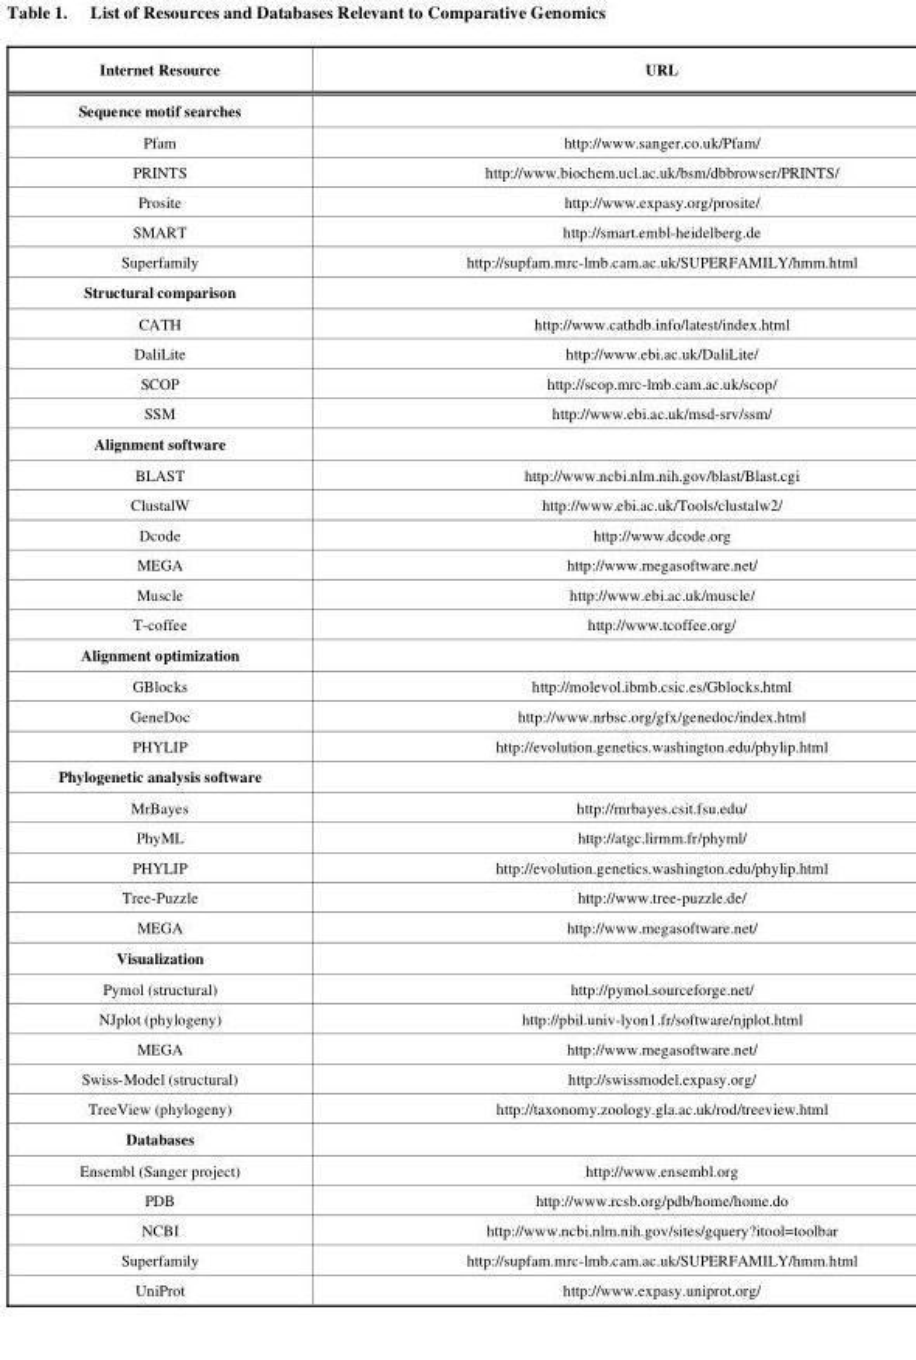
<table><thead><tr><td>Internet Resource</td><td>URL</td></tr></thead><tbody><tr><td colspan="2">Sequence motif searches</td></tr><tr><td>Pfam</td><td>http://www.sanger.co.uk/Pfam/</td></tr><tr><td>PRINTS</td><td>http://www.biochem.ucl.ac.uk/bsm/dbbrowser/PRINTS/</td></tr><tr><td>Prosite</td><td>http://www.expasy.org/prosite/</td></tr><tr><td>SMART</td><td>http://smart.embl-heidelberg.de</td></tr><tr><td>Superfamily</td><td>http://supfam.mrc-lmb.cam.ac.uk/SUPERFAMILY/hmm.html</td></tr><tr><td colspan="2">Structural comparison</td></tr><tr><td>CATH</td><td>http://www.cathdb.info/latest/index.html</td></tr><tr><td>DaliLite</td><td>http://www.ebi.ac.uk/DaliLite/</td></tr><tr><td>SCOP</td><td>http://scop.mrc-lmb.cam.ac.uk/scop/</td></tr><tr><td>SSM</td><td>http://www.ebi.ac.uk/msd-srv/ssm/</td></tr><tr><td colspan="2">Alignment software</td></tr><tr><td>BLAST</td><td>http://www.ncbi.nlm.nih.gov/blast/Blast.cgi</td></tr><tr><td>ClustalW</td><td>http://www.ebi.ac.uk/Tools/clustalw2/</td></tr><tr><td>Dcode</td><td>http://www.dcode.org</td></tr><tr><td>MEGA</td><td>http://www.megasoftware.net/</td></tr><tr><td>Muscle</td><td>http://www.ebi.ac.uk/muscle/</td></tr><tr><td>T-coffee</td><td>http://www.tcoffee.org/</td></tr><tr><td colspan="2">Alignment optimization</td></tr><tr><td>GBlocks</td><td>http://molevol.ibmb.csic.es/Gblocks.html</td></tr><tr><td>GeneDoc</td><td>http://www.nrbsc.org/gfx/genedoc/index.html</td></tr><tr><td>PHYLIP</td><td>http://evolution.genetics.washington.edu/phylip.html</td></tr><tr><td colspan="2">Phylogenetic analysis software</td></tr><tr><td>MrBayes</td><td>http://mrbayes.csit.fsu.edu/</td></tr><tr><td>PhyML</td><td>http://atgc.lirmm.fr/phyml/</td></tr><tr><td>PHYLIP</td><td>http://evolution.genetics.washington.edu/phylip.html</td></tr><tr><td>Tree-Puzzle</td><td>http://www.tree-puzzle.de/</td></tr><tr><td>MEGA</td><td>http://www.megasoftware.net/</td></tr><tr><td colspan="2">Visualization</td></tr><tr><td>Pymol (structural)</td><td>http://pymol.sourceforge.net/</td></tr><tr><td>NJplot (phylogeny)</td><td>http://pbil.univ-lyon1.fr/software/njplot.html</td></tr><tr><td>MEGA</td><td>http://www.megasoftware.net/</td></tr><tr><td>Swiss-Model (structural)</td><td>http://swissmodel.expasy.org/</td></tr><tr><td>TreeView (phylogeny)</td><td>http://taxonomy.zoology.gla.ac.uk/rod/treeview.html</td></tr><tr><td colspan="2">Databases</td></tr><tr><td>Ensembl (Sanger project)</td><td>http://www.ensembl.org</td></tr><tr><td>PDB</td><td>http://www.rcsb.org/pdb/home/home.do</td></tr><tr><td>NCBI</td><td>http://www.ncbi.nlm.nih.gov/sites/gquery?itool=toolbar</td></tr><tr><td>Superfamily</td><td>http://supfam.mrc-lmb.cam.ac.uk/SUPERFAMILY/hmm.html</td></tr><tr><td>UniProt</td><td>http://www.expasy.uniprot.org/</td></tr></tbody></table>